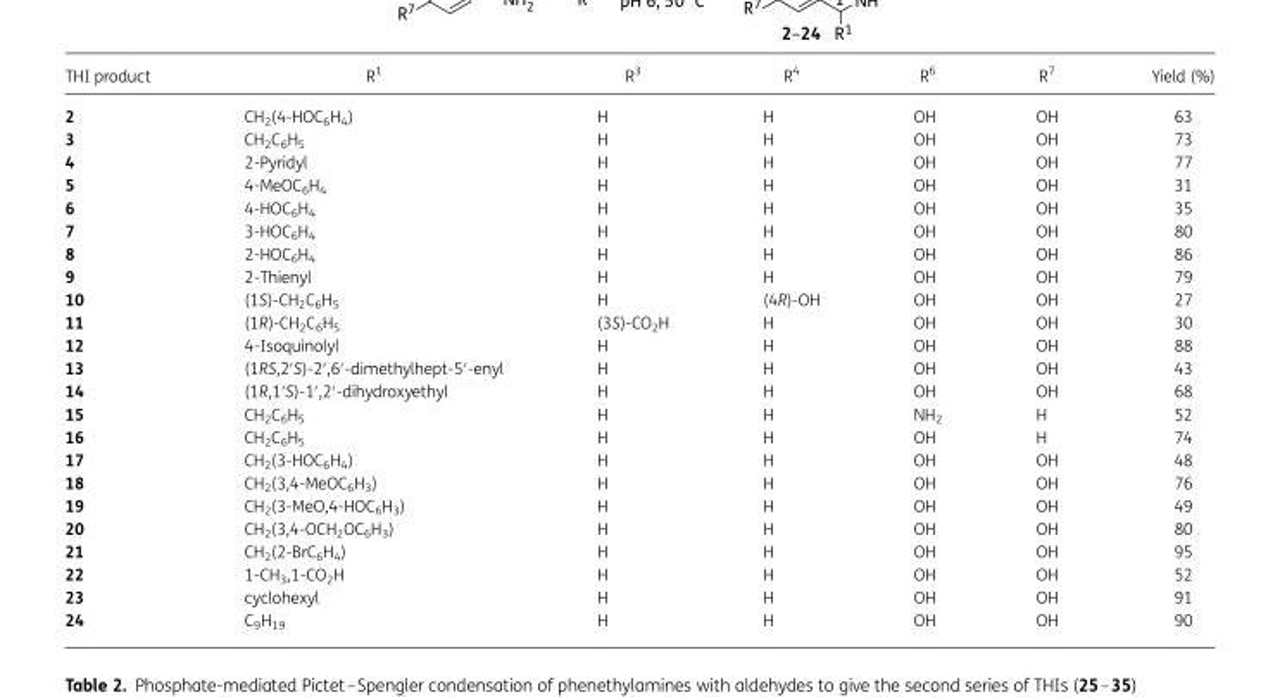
<table><thead><tr><td>THI product</td><td>R<sup>1</sup></td><td>R<sup>3</sup></td><td>R<sup>4</sup></td><td>R<sup>6</sup></td><td>R<sup>7</sup></td><td>Yield (%)</td></tr></thead><tbody><tr><td>2</td><td>CH<sub>2</sub>(4-HOC<sub>6</sub>H<sub>4</sub>)</td><td>H</td><td>H</td><td>OH</td><td>OH</td><td>63</td></tr><tr><td>3</td><td>CH<sub>2</sub>C<sub>6</sub>H<sub>5</sub></td><td>H</td><td>H</td><td>OH</td><td>OH</td><td>73</td></tr><tr><td>4</td><td>2-Pyridyl</td><td>H</td><td>H</td><td>OH</td><td>OH</td><td>77</td></tr><tr><td>5</td><td>4-MeOC<sub>6</sub>H<sub>4</sub></td><td>H</td><td>H</td><td>OH</td><td>OH</td><td>31</td></tr><tr><td>6</td><td>4-HOC<sub>6</sub>H<sub>4</sub></td><td>H</td><td>H</td><td>OH</td><td>OH</td><td>35</td></tr><tr><td>7</td><td>3-HOC<sub>6</sub>H<sub>4</sub></td><td>H</td><td>H</td><td>OH</td><td>OH</td><td>80</td></tr><tr><td>8</td><td>2-HOC<sub>6</sub>H<sub>4</sub></td><td>H</td><td>H</td><td>OH</td><td>OH</td><td>86</td></tr><tr><td>9</td><td>2-Thienyl</td><td>H</td><td>H</td><td>OH</td><td>OH</td><td>79</td></tr><tr><td>10</td><td>(1S)-CH<sub>2</sub>C<sub>6</sub>H<sub>5</sub></td><td>H</td><td>(4R)-OH</td><td>OH</td><td>OH</td><td>27</td></tr><tr><td>11</td><td>(1R)-CH<sub>2</sub>C<sub>6</sub>H<sub>5</sub></td><td>(3S)-CO<sub>2</sub>H</td><td>H</td><td>OH</td><td>OH</td><td>30</td></tr><tr><td>12</td><td>4-Isoquinolyl</td><td>H</td><td>H</td><td>OH</td><td>OH</td><td>88</td></tr><tr><td>13</td><td>(1RS,2′S)-2′,6′-dimethylhept-5′-enyl</td><td>H</td><td>H</td><td>OH</td><td>OH</td><td>43</td></tr><tr><td>14</td><td>(1R,1′S)-1′,2′-dihydroxyethyl</td><td>H</td><td>H</td><td>OH</td><td>OH</td><td>68</td></tr><tr><td>15</td><td>CH<sub>2</sub>C<sub>6</sub>H<sub>5</sub></td><td>H</td><td>H</td><td>NH<sub>2</sub></td><td>H</td><td>52</td></tr><tr><td>16</td><td>CH<sub>2</sub>C<sub>6</sub>H<sub>5</sub></td><td>H</td><td>H</td><td>OH</td><td>H</td><td>74</td></tr><tr><td>17</td><td>CH<sub>2</sub>(3-HOC<sub>6</sub>H<sub>4</sub>)</td><td>H</td><td>H</td><td>OH</td><td>OH</td><td>48</td></tr><tr><td>18</td><td>CH<sub>2</sub>(3,4-MeOC<sub>6</sub>H<sub>3</sub>)</td><td>H</td><td>H</td><td>OH</td><td>OH</td><td>76</td></tr><tr><td>19</td><td>CH<sub>2</sub>(3-MeO,4-HOC<sub>6</sub>H<sub>3</sub>)</td><td>H</td><td>H</td><td>OH</td><td>OH</td><td>49</td></tr><tr><td>20</td><td>CH<sub>2</sub>(3,4-OCH<sub>2</sub>OC<sub>6</sub>H<sub>3</sub>)</td><td>H</td><td>H</td><td>OH</td><td>OH</td><td>80</td></tr><tr><td>21</td><td>CH<sub>2</sub>(2-BrC<sub>6</sub>H<sub>4</sub>)</td><td>H</td><td>H</td><td>OH</td><td>OH</td><td>95</td></tr><tr><td>22</td><td>1-CH<sub>3</sub>,1-CO<sub>2</sub>H</td><td>H</td><td>H</td><td>OH</td><td>OH</td><td>52</td></tr><tr><td>23</td><td>cyclohexyl</td><td>H</td><td>H</td><td>OH</td><td>OH</td><td>91</td></tr><tr><td>24</td><td>C<sub>9</sub>H<sub>19</sub></td><td>H</td><td>H</td><td>OH</td><td>OH</td><td>90</td></tr></tbody></table>